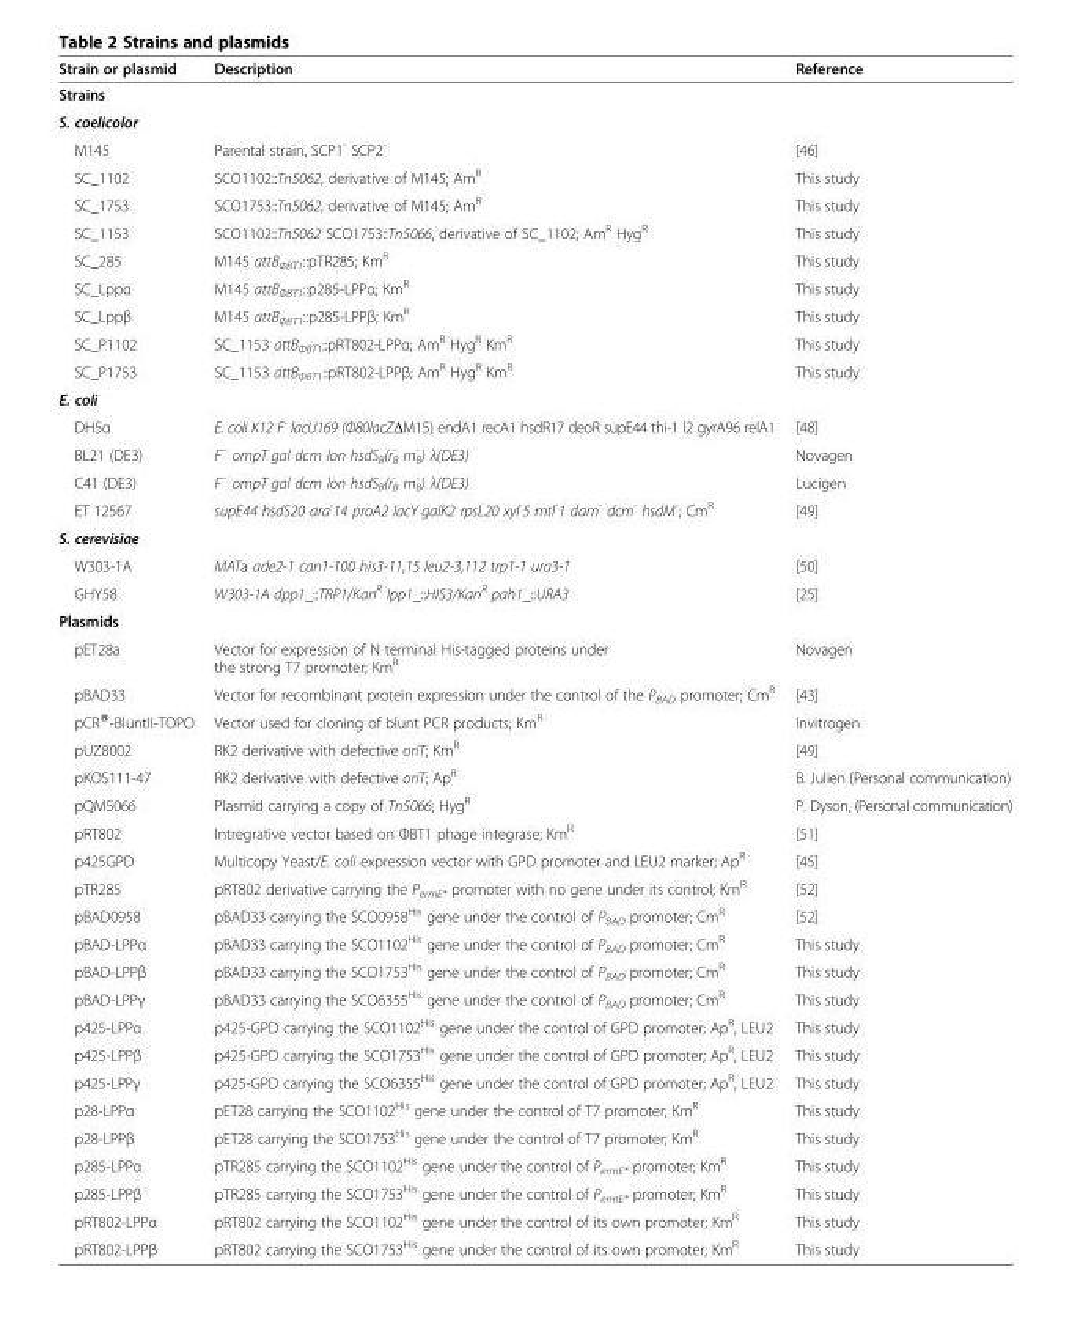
<table><thead><tr><td>Strain or plasmid</td><td>Description</td><td>Reference</td></tr></thead><tbody><tr><td colspan="3">Strains</td></tr><tr><td colspan="3">S. coelicolor</td></tr><tr><td>M145</td><td>Parental strain, SCP1<sup>-</sup> SCP2<sup>-</sup></td><td>[46]</td></tr><tr><td>SC_1102</td><td>SCO1102::Tn5062, derivative of M145; Am<sup>R</sup></td><td>This study</td></tr><tr><td>SC_1753</td><td>SCO1753::Tn5062, derivative of M145; Am<sup>R</sup></td><td>This study</td></tr><tr><td>SC_1153</td><td>SCO1102::Tn5062 SCO1753::Tn5066, derivative of SC_1102; Am<sup>R</sup> Hyg<sup>R</sup></td><td>This study</td></tr><tr><td>SC_285</td><td>M145 attB<sub>ΦBT1</sub>::pTR285; Km<sup>R</sup></td><td>This study</td></tr><tr><td>SC_Lppα</td><td>M145 attB<sub>ΦBT1</sub>::p285-LPPα; Km<sup>R</sup></td><td>This study</td></tr><tr><td>SC_Lppβ</td><td>M145 attB<sub>ΦBT1</sub>::p285-LPPβ; Km<sup>R</sup></td><td>This study</td></tr><tr><td>SC_P1102</td><td>SC_1153 attB<sub>ΦBT1</sub>::pRT802-LPPα; Am<sup>R</sup> Hyg<sup>R</sup> Km<sup>R</sup></td><td>This study</td></tr><tr><td>SC_P1753</td><td>SC_1153 attB<sub>ΦBT1</sub>::pRT802-LPPβ; Am<sup>R</sup> Hyg<sup>R</sup> Km<sup>R</sup></td><td>This study</td></tr><tr><td colspan="3">E. coli</td></tr><tr><td>DH5α</td><td>E. coli K12 F<sup>-</sup> lacU169 (Φ80lacZΔM15) endA1 recA1 hsdR17 deoR supE44 thi-1 l2 gyrA96 relA1</td><td>[48]</td></tr><tr><td>BL21 (DE3)</td><td>F<sup>–</sup> ompT gal dcm lon hsdS<sub>B</sub>(r<sub>B</sub> <sup>-</sup> m<sub>B</sub> <sup>-</sup>) λ(DE3)</td><td>Novagen</td></tr><tr><td>C41 (DE3)</td><td>F<sup>–</sup> ompT gal dcm lon hsdS<sub>B</sub>(r<sub>B</sub> <sup>-</sup> m<sub>B</sub> <sup>-</sup>) λ(DE3)</td><td>Lucigen</td></tr><tr><td>ET 12567</td><td>supE44 hsdS20 ara<sup>-</sup>14 proA2 lacY galK2 rpsL20 xyl<sup>-</sup>5 mtl<sup>-</sup>1 dam<sup>-</sup> dcm<sup>-</sup> hsdM<sup>-</sup>; Cm<sup>R</sup></td><td>[49]</td></tr><tr><td colspan="3">S. cerevisiae</td></tr><tr><td>W303-1A</td><td>MATa ade2-1 can1-100 his3-11,15 leu2-3,112 trp1-1 ura3-1</td><td>[50]</td></tr><tr><td>GHY58</td><td>W303-1A dpp1_::TRP1/Kan<sup>R</sup> lpp1_::HIS3/Kan<sup>R</sup> pah1_::URA3</td><td>[25]</td></tr><tr><td colspan="3">Plasmids</td></tr><tr><td>pET28a</td><td>Vector for expression of N terminal His-tagged proteins under the strong T7 promoter; Km<sup>R</sup></td><td>Novagen</td></tr><tr><td>pBAD33</td><td>Vector for recombinant protein expression under the control of the P<sub>BAD</sub> promoter; Cm<sup>R</sup></td><td>[43]</td></tr><tr><td>pCR®-BluntII-TOPO</td><td>Vector used for cloning of blunt PCR products; Km<sup>R</sup></td><td>Invitrogen</td></tr><tr><td>pUZ8002</td><td>RK2 derivative with defective oriT; Km<sup>R</sup></td><td>[49]</td></tr><tr><td>pKOS111-47</td><td>RK2 derivative with defective oriT; Ap<sup>R</sup></td><td>B. Julien (Personal communication)</td></tr><tr><td>pQM5066</td><td>Plasmid carrying a copy of Tn5066; Hyg<sup>R</sup></td><td>P. Dyson, (Personal communication)</td></tr><tr><td>pRT802</td><td>Intregrative vector based on ΦBT1 phage integrase; Km<sup>R</sup></td><td>[51]</td></tr><tr><td>p425GPD</td><td>Multicopy Yeast/E. coli expression vector with GPD promoter and LEU2 marker; Ap<sup>R</sup></td><td>[45]</td></tr><tr><td>pTR285</td><td>pRT802 derivative carrying the P<sub>ermE*</sub> promoter with no gene under its control; Km<sup>R</sup></td><td>[52]</td></tr><tr><td>pBAD0958</td><td>pBAD33 carrying the SCO0958<sup>His</sup> gene under the control of P<sub>BAD</sub> promoter; Cm<sup>R</sup></td><td>[52]</td></tr><tr><td>pBAD-LPPα</td><td>pBAD33 carrying the SCO1102<sup>His</sup> gene under the control of P<sub>BAD</sub> promoter; Cm<sup>R</sup></td><td>This study</td></tr><tr><td>pBAD-LPPβ</td><td>pBAD33 carrying the SCO1753<sup>His</sup> gene under the control of P<sub>BAD</sub> promoter; Cm<sup>R</sup></td><td>This study</td></tr><tr><td>pBAD-LPPγ</td><td>pBAD33 carrying the SCO6355<sup>His</sup> gene under the control of P<sub>BAD</sub> promoter; Cm<sup>R</sup></td><td>This study</td></tr><tr><td>p425-LPPα</td><td>p425-GPD carrying the SCO1102<sup>His</sup> gene under the control of GPD promoter; Ap<sup>R</sup>, LEU2</td><td>This study</td></tr><tr><td>p425-LPPβ</td><td>p425-GPD carrying the SCO1753<sup>His</sup> gene under the control of GPD promoter; Ap<sup>R</sup>, LEU2</td><td>This study</td></tr><tr><td>p425-LPPγ</td><td>p425-GPD carrying the SCO6355<sup>His</sup> gene under the control of GPD promoter; Ap<sup>R</sup>, LEU2</td><td>This study</td></tr><tr><td>p28-LPPα</td><td>pET28 carrying the SCO1102<sup>His</sup> gene under the control of T7 promoter; Km<sup>R</sup></td><td>This study</td></tr><tr><td>p28-LPPβ</td><td>pET28 carrying the SCO1753<sup>His</sup> gene under the control of T7 promoter; Km<sup>R</sup></td><td>This study</td></tr><tr><td>p285-LPPα</td><td>pTR285 carrying the SCO1102<sup>His</sup> gene under the control of P<sub>ermE*</sub> promoter; Km<sup>R</sup></td><td>This study</td></tr><tr><td>p285-LPPβ</td><td>pTR285 carrying the SCO1753<sup>His</sup> gene under the control of P<sub>ermE*</sub> promoter; Km<sup>R</sup></td><td>This study</td></tr><tr><td>pRT802-LPPα</td><td>pRT802 carrying the SCO1102<sup>His</sup> gene under the control of its own promoter; Km<sup>R</sup></td><td>This study</td></tr><tr><td>pRT802-LPPβ</td><td>pRT802 carrying the SCO1753<sup>His</sup> gene under the control of its own promoter; Km<sup>R</sup></td><td>This study</td></tr></tbody></table>